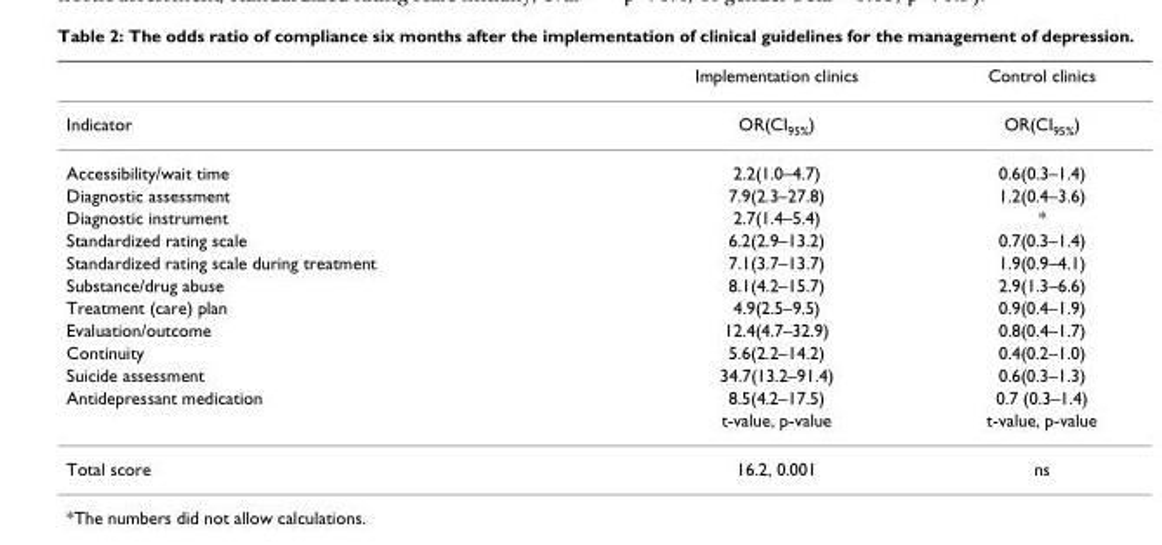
<table><thead><tr><td></td><td>Implementation clinics</td><td>Control clinics</td></tr></thead><tbody><tr><td>Indicator</td><td>OR(CI<sub>95%</sub>)</td><td>OR(CI<sub>95%</sub>)</td></tr><tr><td>Accessibility/wait time</td><td>2.2(1.0–4.7)</td><td>0.6(0.3–1.4)</td></tr><tr><td>Diagnostic assessment</td><td>7.9(2.3–27.8)</td><td>1.2(0.4–3.6)</td></tr><tr><td>Diagnostic instrument</td><td>2.7(1.4–5.4)</td><td>*</td></tr><tr><td>Standardized rating scale</td><td>6.2(2.9–13.2)</td><td>0.7(0.3–1.4)</td></tr><tr><td>Standardized rating scale during treatment</td><td>7.1(3.7–13.7)</td><td>1.9(0.9–4.1)</td></tr><tr><td>Substance/drug abuse</td><td>8.1(4.2–15.7)</td><td>2.9(1.3–6.6)</td></tr><tr><td>Treatment (care) plan</td><td>4.9(2.5–9.5)</td><td>0.9(0.4–1.9)</td></tr><tr><td>Evaluation/outcome</td><td>12.4(4.7–32.9)</td><td>0.8(0.4–1.7)</td></tr><tr><td>Continuity</td><td>5.6(2.2–14.2)</td><td>0.4(0.2–1.0)</td></tr><tr><td>Suicide assessment</td><td>34.7(13.2–91.4)</td><td>0.6(0.3–1.3)</td></tr><tr><td rowspan="2">Antidepressant medication</td><td>8.5(4.2–17.5)</td><td>0.7 (0.3–1.4)</td></tr><tr><td>t-value, p-value</td><td>t-value, p-value</td></tr><tr><td>Total score</td><td>16.2, 0.001</td><td>ns</td></tr></tbody></table>